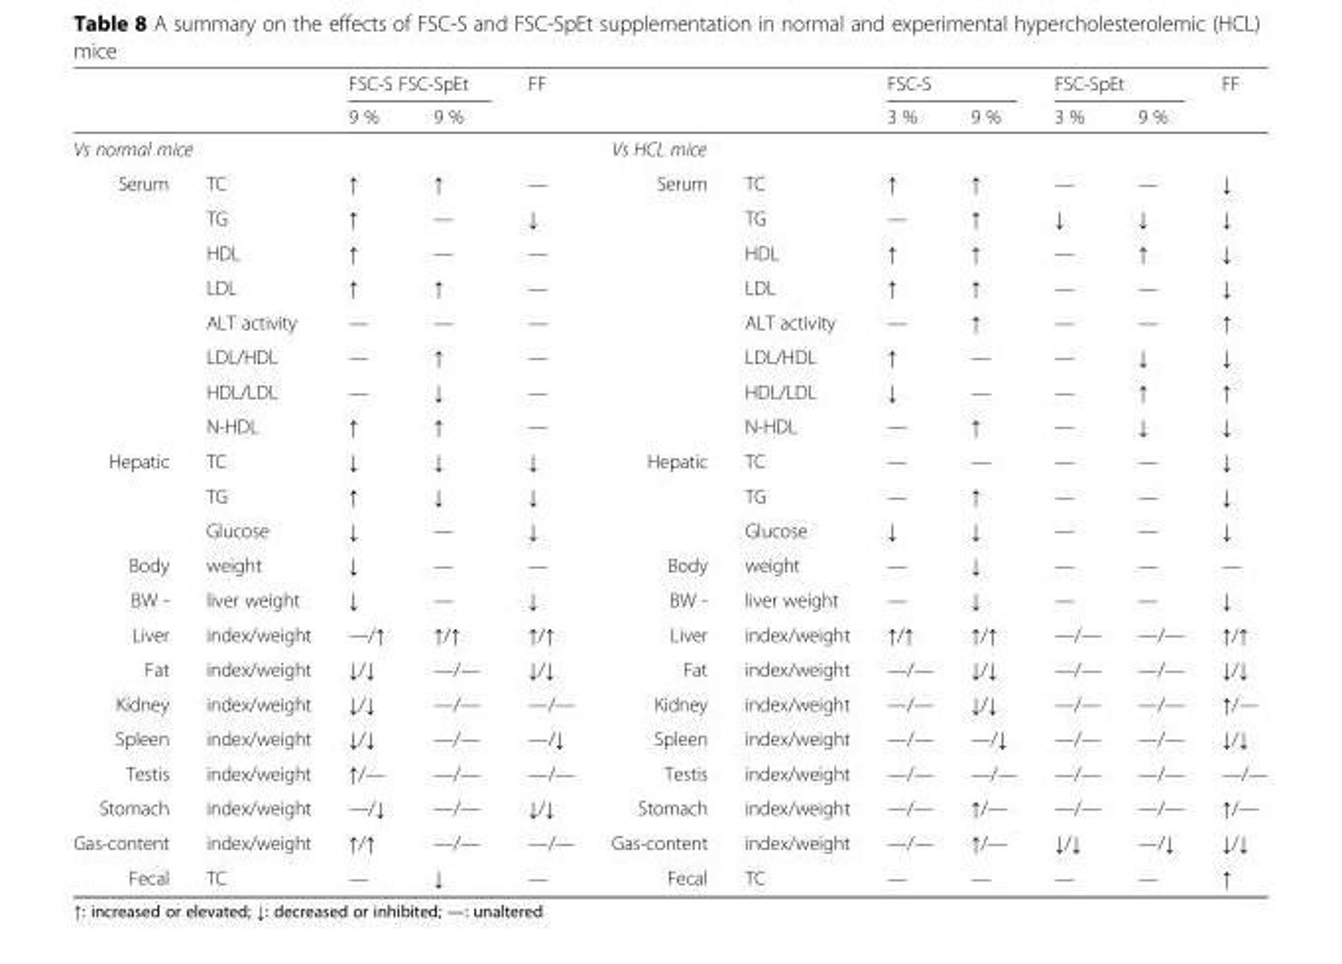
<table><thead><tr><td rowspan="2"></td><td rowspan="2"></td><td colspan="2">FSC-S FSC-SpEt</td><td rowspan="2">FF</td><td rowspan="2"></td><td rowspan="2"></td><td colspan="2">FSC-S</td><td colspan="2">FSC-SpEt</td><td rowspan="2">FF</td></tr><tr><td>9 %</td><td>9 %</td><td>3 %</td><td>9 %</td><td>3 %</td><td>9 %</td></tr></thead><tbody><tr><td colspan="2">Vs normal mice</td><td></td><td></td><td></td><td colspan="2">Vs HCL mice</td><td></td><td></td><td></td><td></td><td></td></tr><tr><td rowspan="8">Serum</td><td>TC</td><td>↑</td><td>↑</td><td>—</td><td>Serum</td><td>TC</td><td>↑</td><td>↑</td><td>—</td><td>—</td><td>↓</td></tr><tr><td>TG</td><td>↑</td><td>—</td><td>↓</td><td></td><td>TG</td><td>—</td><td>↑</td><td>↓</td><td>↓</td><td>↓</td></tr><tr><td>HDL</td><td>↑</td><td>—</td><td>—</td><td></td><td>HDL</td><td>↑</td><td>↑</td><td>—</td><td>↑</td><td>↓</td></tr><tr><td>LDL</td><td>↑</td><td>↑</td><td>—</td><td></td><td>LDL</td><td>↑</td><td>↑</td><td>—</td><td>—</td><td>↓</td></tr><tr><td>ALT activity</td><td>—</td><td>—</td><td>—</td><td></td><td>ALT activity</td><td>—</td><td>↑</td><td>—</td><td>—</td><td>↑</td></tr><tr><td>LDL/HDL</td><td>—</td><td>↑</td><td>—</td><td></td><td>LDL/HDL</td><td>↑</td><td>—</td><td>—</td><td>↓</td><td>↓</td></tr><tr><td>HDL/LDL</td><td>—</td><td>↓</td><td>—</td><td></td><td>HDL/LDL</td><td>↓</td><td>—</td><td>—</td><td>↑</td><td>↑</td></tr><tr><td>N-HDL</td><td>↑</td><td>↑</td><td>—</td><td></td><td>N-HDL</td><td>—</td><td>↑</td><td>—</td><td>↓</td><td>↓</td></tr><tr><td rowspan="3">Hepatic</td><td>TC</td><td>↓</td><td>↓</td><td>↓</td><td>Hepatic</td><td>TC</td><td>—</td><td>—</td><td>—</td><td>—</td><td>↓</td></tr><tr><td>TG</td><td>↑</td><td>↓</td><td>↓</td><td></td><td>TG</td><td>—</td><td>↑</td><td>—</td><td>—</td><td>↓</td></tr><tr><td>Glucose</td><td>↓</td><td>—</td><td>↓</td><td></td><td>Glucose</td><td>↓</td><td>↓</td><td>—</td><td>—</td><td>↓</td></tr><tr><td>Body</td><td>weight</td><td>↓</td><td>—</td><td>—</td><td>Body</td><td>weight</td><td>—</td><td>↓</td><td>—</td><td>—</td><td>—</td></tr><tr><td>BW -</td><td>liver weight</td><td>↓</td><td>—</td><td>↓</td><td>BW -</td><td>liver weight</td><td>—</td><td>↓</td><td>—</td><td>—</td><td>↓</td></tr><tr><td>Liver</td><td>index/weight</td><td>—/↑</td><td>↑/↑</td><td>↑/↑</td><td>Liver</td><td>index/weight</td><td>↑/↑</td><td>↑/↑</td><td>—/—</td><td>—/—</td><td>↑/↑</td></tr><tr><td>Fat</td><td>index/weight</td><td>↓/↓</td><td>—/—</td><td>↓/↓</td><td>Fat</td><td>index/weight</td><td>—/—</td><td>↓/↓</td><td>—/—</td><td>—/—</td><td>↓/↓</td></tr><tr><td>Kidney</td><td>index/weight</td><td>↓/↓</td><td>—/—</td><td>—/—</td><td>Kidney</td><td>index/weight</td><td>—/—</td><td>↓/↓</td><td>—/—</td><td>—/—</td><td>↑/—</td></tr><tr><td>Spleen</td><td>index/weight</td><td>↓/↓</td><td>—/—</td><td>—/↓</td><td>Spleen</td><td>index/weight</td><td>—/—</td><td>—/↓</td><td>—/—</td><td>—/—</td><td>↓/↓</td></tr><tr><td>Testis</td><td>index/weight</td><td>↑/—</td><td>—/—</td><td>—/—</td><td>Testis</td><td>index/weight</td><td>—/—</td><td>—/—</td><td>—/—</td><td>—/—</td><td>—/—</td></tr><tr><td>Stomach</td><td>index/weight</td><td>—/↓</td><td>—/—</td><td>↓/↓</td><td>Stomach</td><td>index/weight</td><td>—/—</td><td>↑/—</td><td>—/—</td><td>—/—</td><td>↑/—</td></tr><tr><td>Gas-content</td><td>index/weight</td><td>↑/↑</td><td>—/—</td><td>—/—</td><td>Gas-content</td><td>index/weight</td><td>—/—</td><td>↑/—</td><td>↓/↓</td><td>—/↓</td><td>↓/↓</td></tr><tr><td>Fecal</td><td>TC</td><td>—</td><td>↓</td><td>—</td><td>Fecal</td><td>TC</td><td>—</td><td>—</td><td>—</td><td>—</td><td>↑</td></tr></tbody></table>